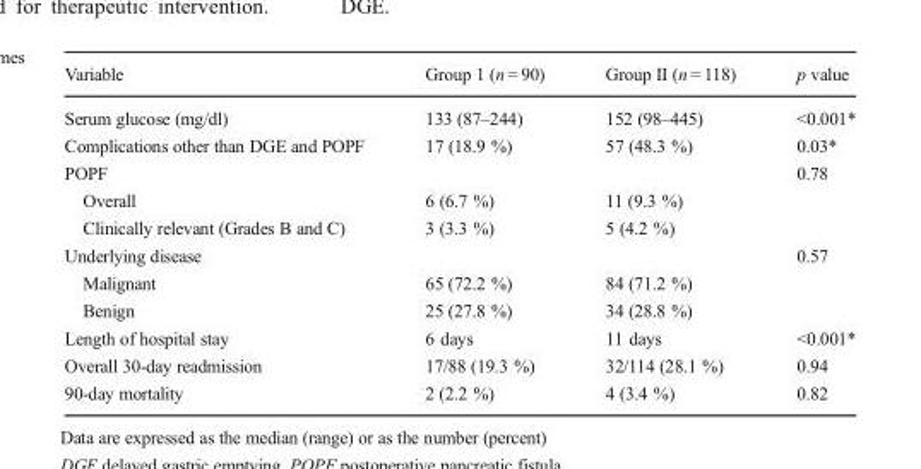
<table><thead><tr><td>Variable</td><td>Group 1 (n = 90)</td><td>Group II (n = 118)</td><td>p value</td></tr></thead><tbody><tr><td>Serum glucose (mg/dl)</td><td>133 (87–244)</td><td>152 (98–445)</td><td>&lt;0.001*</td></tr><tr><td>Complications other than DGE and POPF</td><td>17 (18.9 %)</td><td>57 (48.3 %)</td><td>0.03*</td></tr><tr><td>POPF</td><td></td><td></td><td>0.78</td></tr><tr><td>Overall</td><td>6 (6.7 %)</td><td>11 (9.3 %)</td><td></td></tr><tr><td>Clinically relevant (Grades B and C)</td><td>3 (3.3 %)</td><td>5 (4.2 %)</td><td></td></tr><tr><td>Underlying disease</td><td></td><td></td><td>0.57</td></tr><tr><td>Malignant</td><td>65 (72.2 %)</td><td>84 (71.2 %)</td><td></td></tr><tr><td>Benign</td><td>25 (27.8 %)</td><td>34 (28.8 %)</td><td></td></tr><tr><td>Length of hospital stay</td><td>6 days</td><td>11 days</td><td>&lt;0.001*</td></tr><tr><td>Overall 30-day readmission</td><td>17/88 (19.3 %)</td><td>32/114 (28.1 %)</td><td>0.94</td></tr><tr><td>90-day mortality</td><td>2 (2.2 %)</td><td>4 (3.4 %)</td><td>0.82</td></tr></tbody></table>